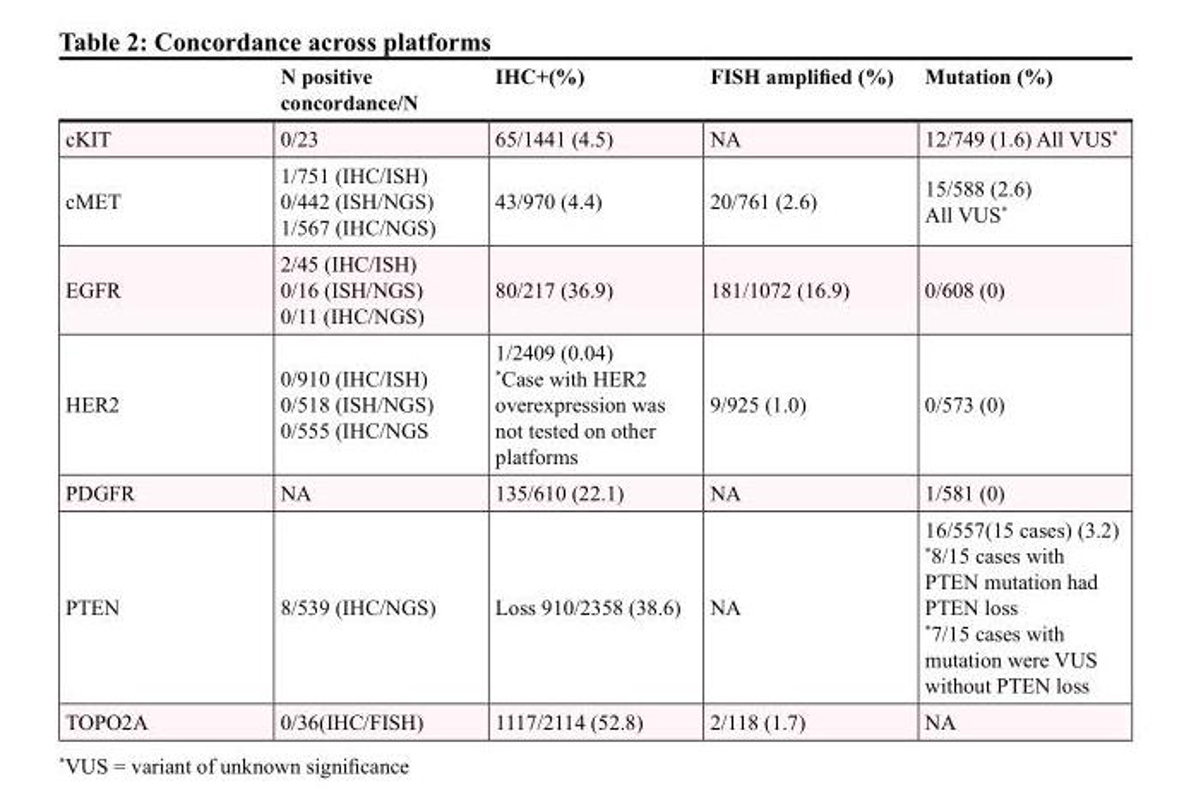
<table><thead><tr><td></td><td>N positive concordance/N</td><td>IHC+(%)</td><td>FISH amplified (%)</td><td>Mutation (%)</td></tr></thead><tbody><tr><td>cKIT</td><td>0/23</td><td>65/1441 (4.5)</td><td>NA</td><td>12/749 (1.6) All VUS*</td></tr><tr><td>cMET</td><td>1/751 (IHC/ISH) 0/442 (ISH/NGS) 1/567 (IHC/NGS)</td><td>43/970 (4.4)</td><td>20/761 (2.6)</td><td>15/588 (2.6) All VUS*</td></tr><tr><td>EGFR</td><td>2/45 (IHC/ISH) 0/16 (ISH/NGS) 0/11 (IHC/NGS)</td><td>80/217 (36.9)</td><td>181/1072 (16.9)</td><td>0/608 (0)</td></tr><tr><td>HER2</td><td>0/910 (IHC/ISH) 0/518 (ISH/NGS) 0/555 (IHC/NGS</td><td>1/2409 (0.04) *Case with HER2 overexpression was not tested on other platforms</td><td>9/925 (1.0)</td><td>0/573 (0)</td></tr><tr><td>PDGFR</td><td>NA</td><td>135/610 (22.1)</td><td>NA</td><td>1/581 (0)</td></tr><tr><td>PTEN</td><td>8/539 (IHC/NGS)</td><td>Loss 910/2358 (38.6)</td><td>NA</td><td>16/557(15 cases) (3.2) *8/15 cases with PTEN mutation had PTEN loss *7/15 cases with mutation were VUS without PTEN loss</td></tr><tr><td>TOPO2A</td><td>0/36(IHC/FISH)</td><td>1117/2114 (52.8)</td><td>2/118 (1.7)</td><td>NA</td></tr></tbody></table>